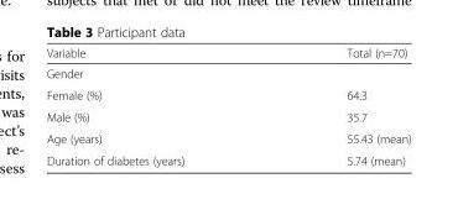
<table><thead><tr><td>Variable</td><td>Total (n=70)</td></tr></thead><tbody><tr><td colspan="2">Gender</td></tr><tr><td>Female (%)</td><td>64.3</td></tr><tr><td>Male (%)</td><td>35.7</td></tr><tr><td>Age (years)</td><td>55.43 (mean)</td></tr><tr><td>Duration of diabetes (years)</td><td>5.74 (mean)</td></tr></tbody></table>